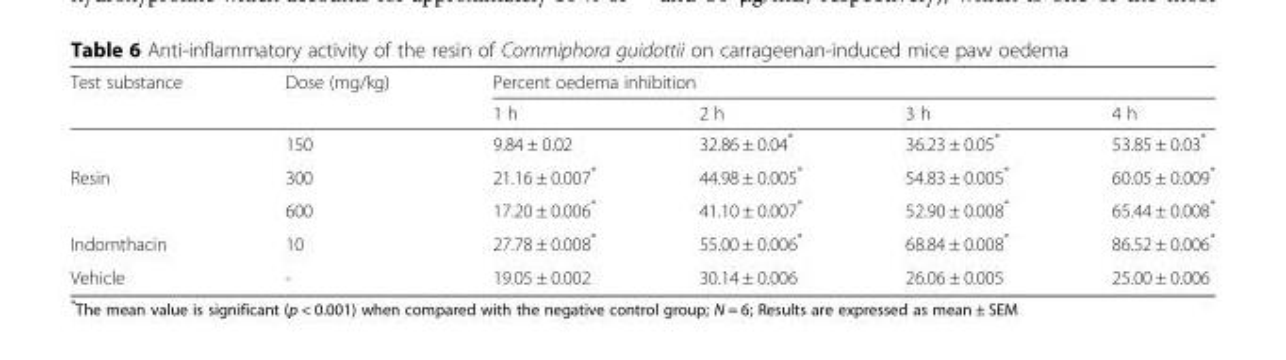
<table><thead><tr><td rowspan="2">Test substance</td><td rowspan="2">Dose (mg/kg)</td><td colspan="4">Percent oedema inhibition</td></tr><tr><td>1 h</td><td>2 h</td><td>3 h</td><td>4 h</td></tr></thead><tbody><tr><td></td><td>150</td><td>9.84 ± 0.02</td><td>32.86 ± 0.04*</td><td>36.23 ± 0.05*</td><td>53.85 ± 0.03*</td></tr><tr><td rowspan="2">Resin</td><td>300</td><td>21.16 ± 0.007*</td><td>44.98 ± 0.005*</td><td>54.83 ± 0.005*</td><td>60.05 ± 0.009*</td></tr><tr><td>600</td><td>17.20 ± 0.006*</td><td>41.10 ± 0.007*</td><td>52.90 ± 0.008*</td><td>65.44 ± 0.008*</td></tr><tr><td>Indomthacin</td><td>10</td><td>27.78 ± 0.008*</td><td>55.00 ± 0.006*</td><td>68.84 ± 0.008*</td><td>86.52 ± 0.006*</td></tr><tr><td>Vehicle</td><td>-</td><td>19.05 ± 0.002</td><td>30.14 ± 0.006</td><td>26.06 ± 0.005</td><td>25.00 ± 0.006</td></tr></tbody></table>